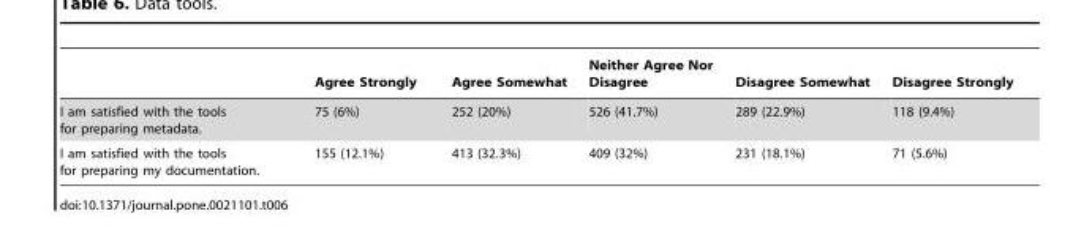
<table><thead><tr><td></td><td>Agree Strongly</td><td>Agree Somewhat</td><td>Neither Agree Nor Disagree</td><td>Disagree Somewhat</td><td>Disagree Strongly</td></tr></thead><tbody><tr><td>I am satisfied with the tools for preparing metadata.</td><td>75 (6%)</td><td>252 (20%)</td><td>526 (41.7%)</td><td>289 (22.9%)</td><td>118 (9.4%)</td></tr><tr><td>I am satisfied with the tools for preparing my documentation.</td><td>155 (12.1%)</td><td>413 (32.3%)</td><td>409 (32%)</td><td>231 (18.1%)</td><td>71 (5.6%)</td></tr></tbody></table>